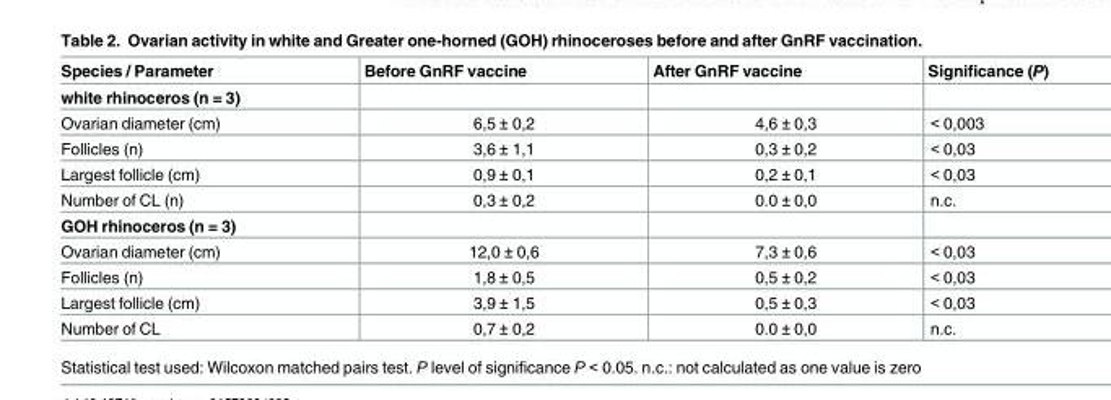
<table><thead><tr><td>Species / Parameter</td><td>Before GnRF vaccine</td><td>After GnRF vaccine</td><td>Significance (P)</td></tr></thead><tbody><tr><td colspan="4">white rhinoceros (n = 3)</td></tr><tr><td>Ovarian diameter (cm)</td><td>6,5 ± 0,2</td><td>4,6 ± 0,3</td><td>&lt; 0,003</td></tr><tr><td>Follicles (n)</td><td>3,6 ± 1,1</td><td>0,3 ± 0,2</td><td>&lt; 0,03</td></tr><tr><td>Largest follicle (cm)</td><td>0,9 ± 0,1</td><td>0,2 ± 0,1</td><td>&lt; 0,03</td></tr><tr><td>Number of CL (n)</td><td>0,3 ± 0,2</td><td>0.0 ± 0,0</td><td>n.c.</td></tr><tr><td colspan="4">GOH rhinoceros (n = 3)</td></tr><tr><td>Ovarian diameter (cm)</td><td>12,0 ± 0,6</td><td>7,3 ± 0,6</td><td>&lt; 0,03</td></tr><tr><td>Follicles (n)</td><td>1,8 ± 0,5</td><td>0,5 ± 0,2</td><td>&lt; 0,03</td></tr><tr><td>Largest follicle (cm)</td><td>3,9 ± 1,5</td><td>0,5 ± 0,3</td><td>&lt; 0,03</td></tr><tr><td>Number of CL</td><td>0,7 ± 0,2</td><td>0.0 ± 0,0</td><td>n.c.</td></tr></tbody></table>